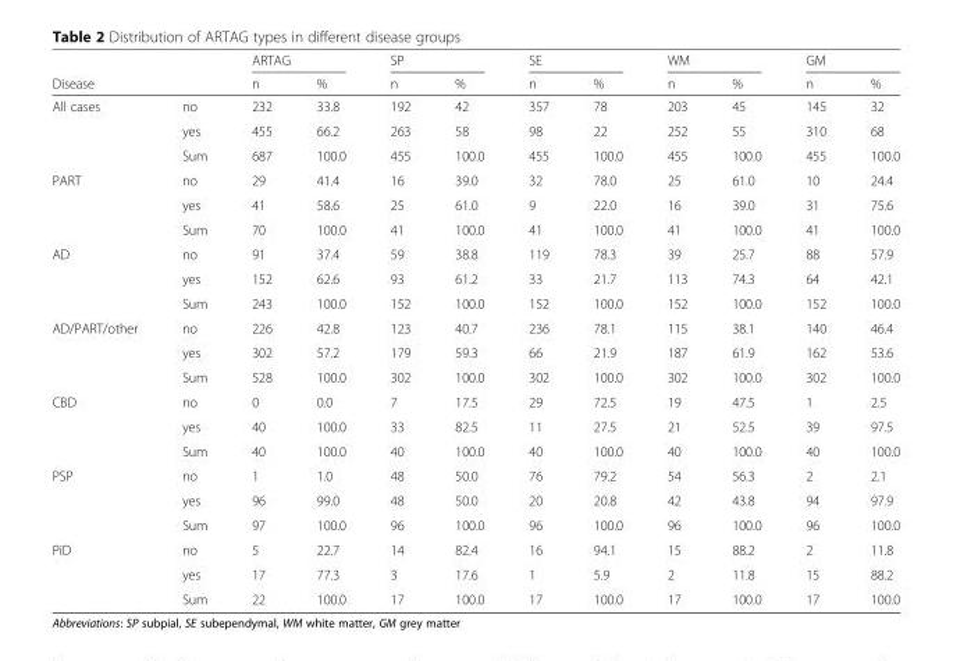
<table><thead><tr><td rowspan="2">Disease</td><td rowspan="2"></td><td colspan="2">ARTAG</td><td colspan="2">SP</td><td colspan="2">SE</td><td colspan="2">WM</td><td colspan="2">GM</td></tr><tr><td>n</td><td>%</td><td>n</td><td>%</td><td>n</td><td>%</td><td>n</td><td>%</td><td>n</td><td>%</td></tr></thead><tbody><tr><td rowspan="3">All cases</td><td>no</td><td>232</td><td>33.8</td><td>192</td><td>42</td><td>357</td><td>78</td><td>203</td><td>45</td><td>145</td><td>32</td></tr><tr><td>yes</td><td>455</td><td>66.2</td><td>263</td><td>58</td><td>98</td><td>22</td><td>252</td><td>55</td><td>310</td><td>68</td></tr><tr><td>Sum</td><td>687</td><td>100.0</td><td>455</td><td>100.0</td><td>455</td><td>100.0</td><td>455</td><td>100.0</td><td>455</td><td>100.0</td></tr><tr><td rowspan="3">PART</td><td>no</td><td>29</td><td>41.4</td><td>16</td><td>39.0</td><td>32</td><td>78.0</td><td>25</td><td>61.0</td><td>10</td><td>24.4</td></tr><tr><td>yes</td><td>41</td><td>58.6</td><td>25</td><td>61.0</td><td>9</td><td>22.0</td><td>16</td><td>39.0</td><td>31</td><td>75.6</td></tr><tr><td>Sum</td><td>70</td><td>100.0</td><td>41</td><td>100.0</td><td>41</td><td>100.0</td><td>41</td><td>100.0</td><td>41</td><td>100.0</td></tr><tr><td rowspan="3">AD</td><td>no</td><td>91</td><td>37.4</td><td>59</td><td>38.8</td><td>119</td><td>78.3</td><td>39</td><td>25.7</td><td>88</td><td>57.9</td></tr><tr><td>yes</td><td>152</td><td>62.6</td><td>93</td><td>61.2</td><td>33</td><td>21.7</td><td>113</td><td>74.3</td><td>64</td><td>42.1</td></tr><tr><td>Sum</td><td>243</td><td>100.0</td><td>152</td><td>100.0</td><td>152</td><td>100.0</td><td>152</td><td>100.0</td><td>152</td><td>100.0</td></tr><tr><td rowspan="3">AD/PART/other</td><td>no</td><td>226</td><td>42.8</td><td>123</td><td>40.7</td><td>236</td><td>78.1</td><td>115</td><td>38.1</td><td>140</td><td>46.4</td></tr><tr><td>yes</td><td>302</td><td>57.2</td><td>179</td><td>59.3</td><td>66</td><td>21.9</td><td>187</td><td>61.9</td><td>162</td><td>53.6</td></tr><tr><td>Sum</td><td>528</td><td>100.0</td><td>302</td><td>100.0</td><td>302</td><td>100.0</td><td>302</td><td>100.0</td><td>302</td><td>100.0</td></tr><tr><td rowspan="3">CBD</td><td>no</td><td>0</td><td>0.0</td><td>7</td><td>17.5</td><td>29</td><td>72.5</td><td>19</td><td>47.5</td><td>1</td><td>2.5</td></tr><tr><td>yes</td><td>40</td><td>100.0</td><td>33</td><td>82.5</td><td>11</td><td>27.5</td><td>21</td><td>52.5</td><td>39</td><td>97.5</td></tr><tr><td>Sum</td><td>40</td><td>100.0</td><td>40</td><td>100.0</td><td>40</td><td>100.0</td><td>40</td><td>100.0</td><td>40</td><td>100.0</td></tr><tr><td rowspan="3">PSP</td><td>no</td><td>1</td><td>1.0</td><td>48</td><td>50.0</td><td>76</td><td>79.2</td><td>54</td><td>56.3</td><td>2</td><td>2.1</td></tr><tr><td>yes</td><td>96</td><td>99.0</td><td>48</td><td>50.0</td><td>20</td><td>20.8</td><td>42</td><td>43.8</td><td>94</td><td>97.9</td></tr><tr><td>Sum</td><td>97</td><td>100.0</td><td>96</td><td>100.0</td><td>96</td><td>100.0</td><td>96</td><td>100.0</td><td>96</td><td>100.0</td></tr><tr><td rowspan="3">PiD</td><td>no</td><td>5</td><td>22.7</td><td>14</td><td>82.4</td><td>16</td><td>94.1</td><td>15</td><td>88.2</td><td>2</td><td>11.8</td></tr><tr><td>yes</td><td>17</td><td>77.3</td><td>3</td><td>17.6</td><td>1</td><td>5.9</td><td>2</td><td>11.8</td><td>15</td><td>88.2</td></tr><tr><td>Sum</td><td>22</td><td>100.0</td><td>17</td><td>100.0</td><td>17</td><td>100.0</td><td>17</td><td>100.0</td><td>17</td><td>100.0</td></tr></tbody></table>